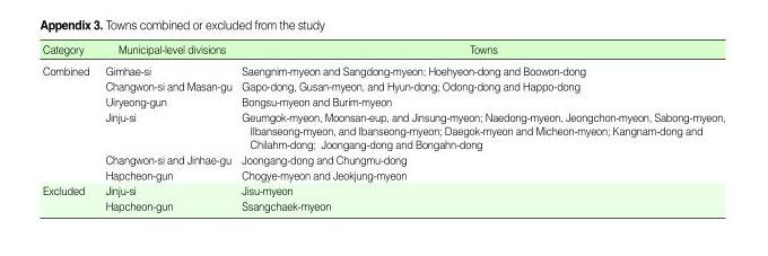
<table><thead><tr><td>Category</td><td>Municipal-level divisions</td><td>Towns</td></tr></thead><tbody><tr><td rowspan="6">Combined</td><td>Gimhae-si</td><td>Saengnim-myeon and Sangdong-myeon; Hoehyeon-dong and Boowon-dong</td></tr><tr><td>Changwon-si and Masan-gu</td><td>Gapo-dong, Gusan-myeon, and Hyun-dong; Odong-dong and Happo-dong</td></tr><tr><td>Uiryeong-gun</td><td>Bongsu-myeon and Burim-myeon</td></tr><tr><td>Jinju-si</td><td>Geumgok-myeon, Moonsan-eup, and Jinsung-myeon; Naedong-myeon, Jeongchon-myeon, Sabong-myeon, Ilbanseong-myeon, and Ibanseong-myeon; Daegok-myeon and Micheon-myeon; Kangnam-dong and Chilahm-dong; Joongang-dong and Bongahn-dong</td></tr><tr><td>Changwon-si and Jinhae-gu</td><td>Joongang-dong and Chungmu-dong</td></tr><tr><td>Hapcheon-gun</td><td>Chogye-myeon and Jeokjung-myeon</td></tr><tr><td rowspan="2">Excluded</td><td>Jinju-si</td><td>Jisu-myeon</td></tr><tr><td>Hapcheon-gun</td><td>Ssangchaek-myeon</td></tr></tbody></table>